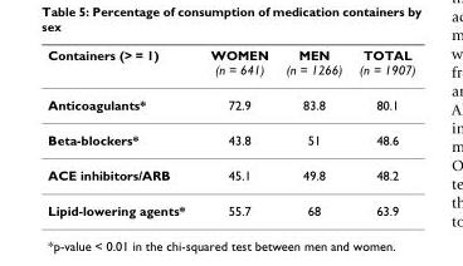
<table><thead><tr><td>Containers (&gt; = 1)</td><td>WOMEN (n = 641)</td><td>MEN (n = 1266)</td><td>TOTAL (n = 1907)</td></tr></thead><tbody><tr><td>Anticoagulants*</td><td>72.9</td><td>83.8</td><td>80.1</td></tr><tr><td>Beta-blockers*</td><td>43.8</td><td>51</td><td>48.6</td></tr><tr><td>ACE inhibitors/ARB</td><td>45.1</td><td>49.8</td><td>48.2</td></tr><tr><td>Lipid-lowering agents*</td><td>55.7</td><td>68</td><td>63.9</td></tr></tbody></table>